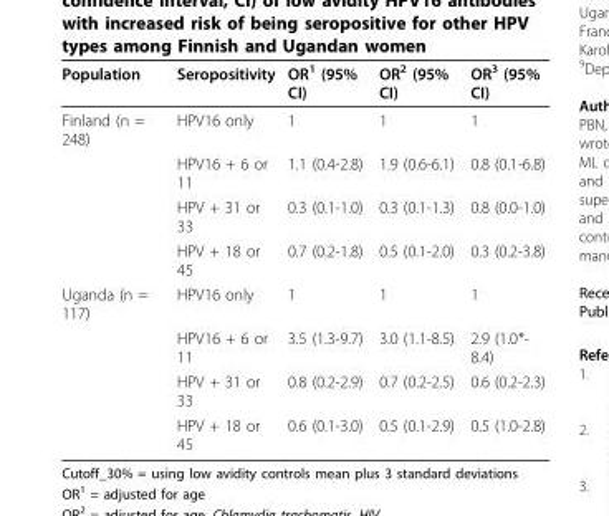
<table><thead><tr><td>Population</td><td>Seropositivity</td><td>OR<sup>1</sup> (95% CI)</td><td>OR<sup>2</sup> (95% CI)</td><td>OR<sup>3</sup> (95% CI)</td></tr></thead><tbody><tr><td rowspan="4">Finland (n = 248)</td><td>HPV16 only</td><td>1</td><td>1</td><td>1</td></tr><tr><td>HPV16 + 6 or 11</td><td>1.1 (0.4-2.8)</td><td>1.9 (0.6-6.1)</td><td>0.8 (0.1-6.8)</td></tr><tr><td>HPV + 31 or 33</td><td>0.3 (0.1-1.0)</td><td>0.3 (0.1-1.3)</td><td>0.8 (0.0-1.0)</td></tr><tr><td>HPV + 18 or 45</td><td>0.7 (0.2-1.8)</td><td>0.5 (0.1-2.0)</td><td>0.3 (0.2-3.8)</td></tr><tr><td rowspan="4">Uganda (n = 117)</td><td>HPV16 only</td><td>1</td><td>1</td><td>1</td></tr><tr><td>HPV16 + 6 or 11</td><td>3.5 (1.3-9.7)</td><td>3.0 (1.1-8.5)</td><td>2.9 (1.0*- 8.4)</td></tr><tr><td>HPV + 31 or 33</td><td>0.8 (0.2-2.9)</td><td>0.7 (0.2-2.5)</td><td>0.6 (0.2-2.3)</td></tr><tr><td>HPV + 18 or 45</td><td>0.6 (0.1-3.0)</td><td>0.5 (0.1-2.9)</td><td>0.5 (1.0-2.8)</td></tr></tbody></table>